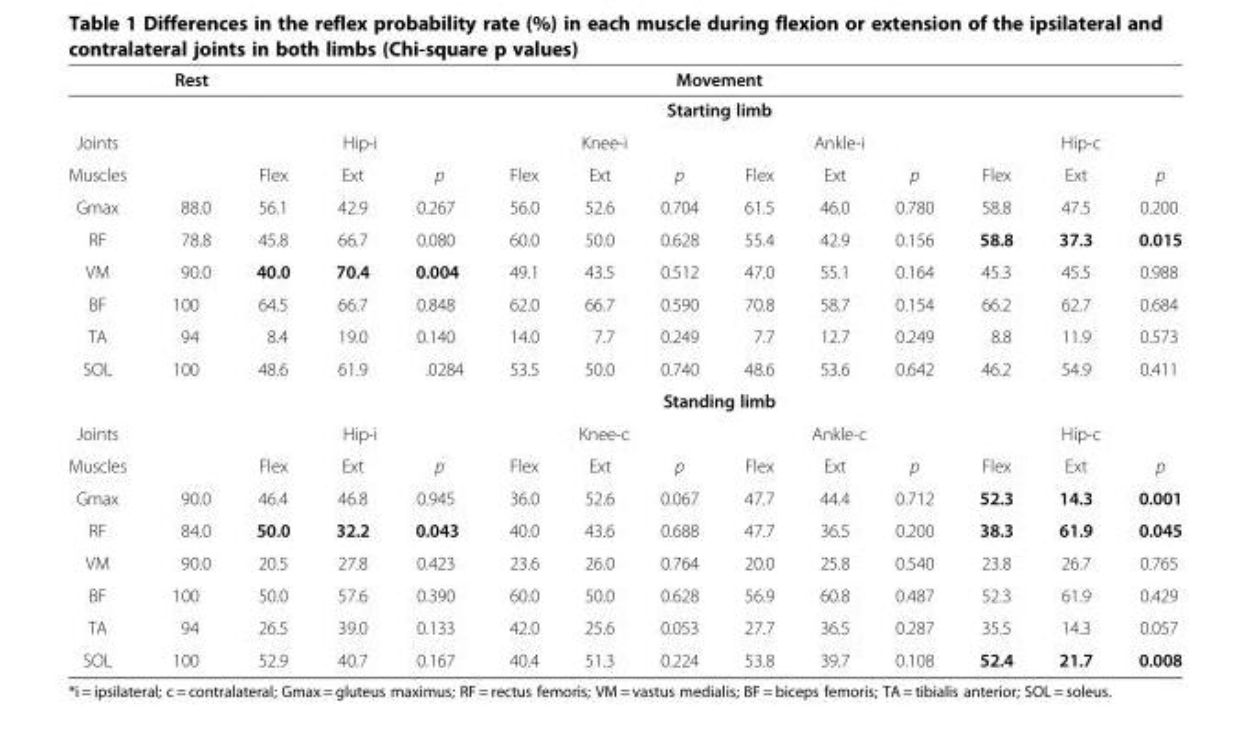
<table><thead><tr><td rowspan="4">Joints Muscles</td><td rowspan="4">Rest</td><td rowspan="2" colspan="12">Movement Starting limb</td></tr><tr></tr><tr><td colspan="3">Hip-i</td><td colspan="3">Knee-i</td><td colspan="3">Ankle-i</td><td colspan="3">Hip-c</td></tr><tr><td>Flex</td><td>Ext</td><td>p</td><td>Flex</td><td>Ext</td><td>p</td><td>Flex</td><td>Ext</td><td>p</td><td>Flex</td><td>Ext</td><td>p</td></tr></thead><tbody><tr><td>Gmax</td><td>88.0</td><td>56.1</td><td>42.9</td><td>0.267</td><td>56.0</td><td>52.6</td><td>0.704</td><td>61.5</td><td>46.0</td><td>0.780</td><td>58.8</td><td>47.5</td><td>0.200</td></tr><tr><td>RF</td><td>78.8</td><td>45.8</td><td>66.7</td><td>0.080</td><td>60.0</td><td>50.0</td><td>0.628</td><td>55.4</td><td>42.9</td><td>0.156</td><td>58.8</td><td>37.3</td><td>0.015</td></tr><tr><td>VM</td><td>90.0</td><td>40.0</td><td>70.4</td><td>0.004</td><td>49.1</td><td>43.5</td><td>0.512</td><td>47.0</td><td>55.1</td><td>0.164</td><td>45.3</td><td>45.5</td><td>0.988</td></tr><tr><td>BF</td><td>100</td><td>64.5</td><td>66.7</td><td>0.848</td><td>62.0</td><td>66.7</td><td>0.590</td><td>70.8</td><td>58.7</td><td>0.154</td><td>66.2</td><td>62.7</td><td>0.684</td></tr><tr><td>TA</td><td>94</td><td>8.4</td><td>19.0</td><td>0.140</td><td>14.0</td><td>7.7</td><td>0.249</td><td>7.7</td><td>12.7</td><td>0.249</td><td>8.8</td><td>11.9</td><td>0.573</td></tr><tr><td rowspan="2">SOL</td><td>100</td><td>48.6</td><td>61.9</td><td>.0284</td><td>53.5</td><td>50.0</td><td>0.740</td><td>48.6</td><td>53.6</td><td>0.642</td><td>46.2</td><td>54.9</td><td>0.411</td></tr><tr><td></td><td colspan="12">Standing limb</td></tr><tr><td>Joints</td><td></td><td colspan="3">Hip-i</td><td colspan="3">Knee-c</td><td colspan="3">Ankle-c</td><td colspan="3">Hip-c</td></tr><tr><td>Muscles</td><td></td><td>Flex</td><td>Ext</td><td>p</td><td>Flex</td><td>Ext</td><td>p</td><td>Flex</td><td>Ext</td><td>p</td><td>Flex</td><td>Ext</td><td>p</td></tr><tr><td>Gmax</td><td>90.0</td><td>46.4</td><td>46.8</td><td>0.945</td><td>36.0</td><td>52.6</td><td>0.067</td><td>47.7</td><td>44.4</td><td>0.712</td><td>52.3</td><td>14.3</td><td>0.001</td></tr><tr><td>RF</td><td>84.0</td><td>50.0</td><td>32.2</td><td>0.043</td><td>40.0</td><td>43.6</td><td>0.688</td><td>47.7</td><td>36.5</td><td>0.200</td><td>38.3</td><td>61.9</td><td>0.045</td></tr><tr><td>VM</td><td>90.0</td><td>20.5</td><td>27.8</td><td>0.423</td><td>23.6</td><td>26.0</td><td>0.764</td><td>20.0</td><td>25.8</td><td>0.540</td><td>23.8</td><td>26.7</td><td>0.765</td></tr><tr><td>BF</td><td>100</td><td>50.0</td><td>57.6</td><td>0.390</td><td>60.0</td><td>50.0</td><td>0.628</td><td>56.9</td><td>60.8</td><td>0.487</td><td>52.3</td><td>61.9</td><td>0.429</td></tr><tr><td>TA</td><td>94</td><td>26.5</td><td>39.0</td><td>0.133</td><td>42.0</td><td>25.6</td><td>0.053</td><td>27.7</td><td>36.5</td><td>0.287</td><td>35.5</td><td>14.3</td><td>0.057</td></tr><tr><td>SOL</td><td>100</td><td>52.9</td><td>40.7</td><td>0.167</td><td>40.4</td><td>51.3</td><td>0.224</td><td>53.8</td><td>39.7</td><td>0.108</td><td>52.4</td><td>21.7</td><td>0.008</td></tr></tbody></table>